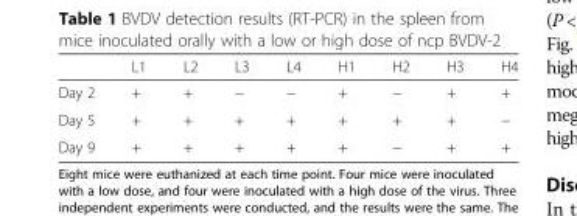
<table><thead><tr><td></td><td>L1</td><td>L2</td><td>L3</td><td>L4</td><td>H1</td><td>H2</td><td>H3</td><td>H4</td></tr></thead><tbody><tr><td>Day 2</td><td>+</td><td>+</td><td>−</td><td>−</td><td>+</td><td>−</td><td>+</td><td>+</td></tr><tr><td>Day 5</td><td>+</td><td>+</td><td>+</td><td>+</td><td>+</td><td>+</td><td>+</td><td>−</td></tr><tr><td>Day 9</td><td>+</td><td>+</td><td>+</td><td>+</td><td>+</td><td>−</td><td>+</td><td>+</td></tr></tbody></table>